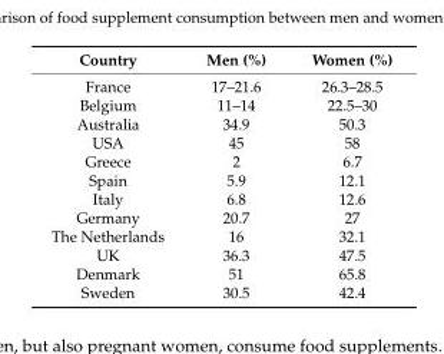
<table><thead><tr><td>Country</td><td>Men (%)</td><td>Women (%)</td></tr></thead><tbody><tr><td>France</td><td>17–21.6</td><td>26.3–28.5</td></tr><tr><td>Belgium</td><td>11–14</td><td>22.5–30</td></tr><tr><td>Australia</td><td>34.9</td><td>50.3</td></tr><tr><td>USA</td><td>45</td><td>58</td></tr><tr><td>Greece</td><td>2</td><td>6.7</td></tr><tr><td>Spain</td><td>5.9</td><td>12.1</td></tr><tr><td>Italy</td><td>6.8</td><td>12.6</td></tr><tr><td>Germany</td><td>20.7</td><td>27</td></tr><tr><td>The Netherlands</td><td>16</td><td>32.1</td></tr><tr><td>UK</td><td>36.3</td><td>47.5</td></tr><tr><td>Denmark</td><td>51</td><td>65.8</td></tr><tr><td>Sweden</td><td>30.5</td><td>42.4</td></tr></tbody></table>